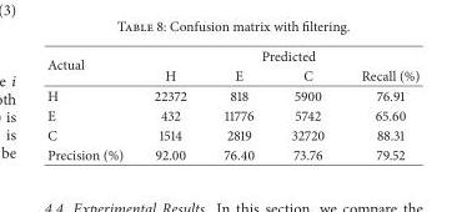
<table><thead><tr><td rowspan="2">Actual</td><td colspan="4">Predicted</td></tr><tr><td>H</td><td>E</td><td>C</td><td>Recall (%)</td></tr></thead><tbody><tr><td>H</td><td>22372</td><td>818</td><td>5900</td><td>76.91</td></tr><tr><td>E</td><td>432</td><td>11776</td><td>5742</td><td>65.60</td></tr><tr><td>C</td><td>1514</td><td>2819</td><td>32720</td><td>88.31</td></tr><tr><td>Precision (%)</td><td>92.00</td><td>76.40</td><td>73.76</td><td>79.52</td></tr></tbody></table>